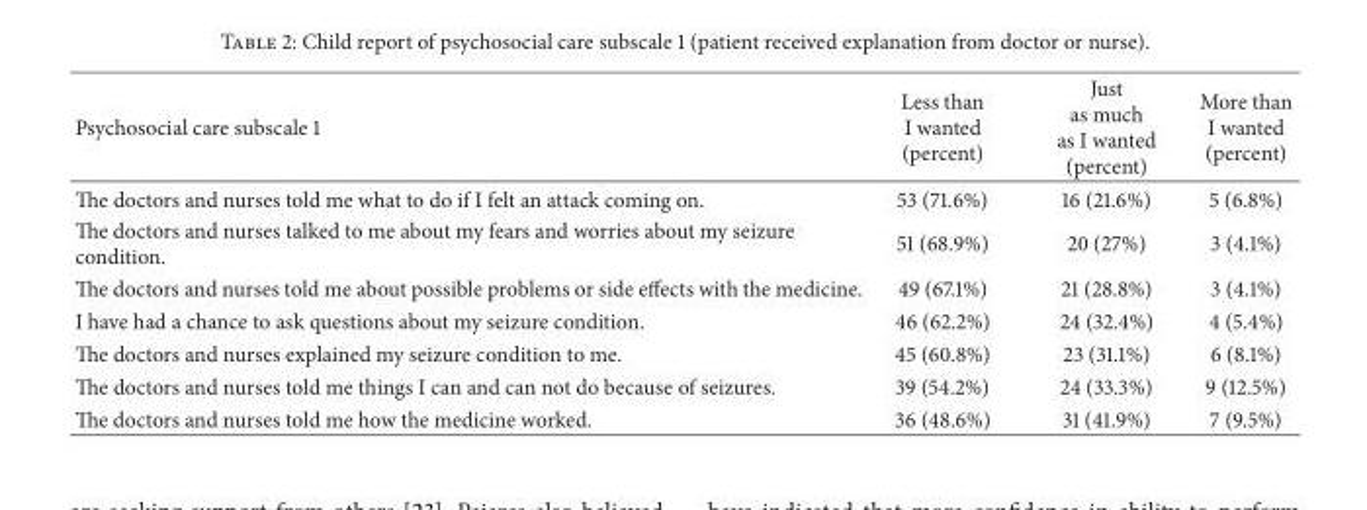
<table><thead><tr><td>Psychosocial care subscale 1</td><td>Less than I wanted (percent)</td><td>Just as much as I wanted (percent)</td><td>More than I wanted (percent)</td></tr></thead><tbody><tr><td>The doctors and nurses told me what to do if I felt an attack coming on.</td><td>53 (71.6%)</td><td>16 (21.6%)</td><td>5 (6.8%)</td></tr><tr><td>The doctors and nurses talked to me about my fears and worries about my seizure condition.</td><td>51 (68.9%)</td><td>20 (27%)</td><td>3 (4.1%)</td></tr><tr><td>The doctors and nurses told me about possible problems or side effects with the medicine.</td><td>49 (67.1%)</td><td>21 (28.8%)</td><td>3 (4.1%)</td></tr><tr><td>I have had a chance to ask questions about my seizure condition.</td><td>46 (62.2%)</td><td>24 (32.4%)</td><td>4 (5.4%)</td></tr><tr><td>The doctors and nurses explained my seizure condition to me.</td><td>45 (60.8%)</td><td>23 (31.1%)</td><td>6 (8.1%)</td></tr><tr><td>The doctors and nurses told me things I can and can not do because of seizures.</td><td>39 (54.2%)</td><td>24 (33.3%)</td><td>9 (12.5%)</td></tr><tr><td>The doctors and nurses told me how the medicine worked.</td><td>36 (48.6%)</td><td>31 (41.9%)</td><td>7 (9.5%)</td></tr></tbody></table>